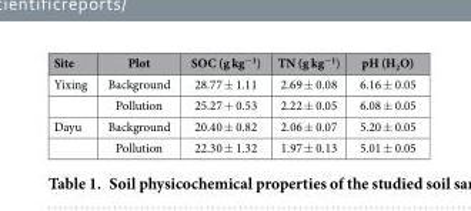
<table><thead><tr><td>Site</td><td>Plot</td><td>SOC (g kg<sup>−1</sup>)</td><td>TN (g kg<sup>−1</sup>)</td><td>pH (H<sub>2</sub>O)</td></tr></thead><tbody><tr><td rowspan="2">Yixing</td><td>Background</td><td>28.77 ± 1.11</td><td>2.69 ± 0.08</td><td>6.16 ± 0.05</td></tr><tr><td>Pollution</td><td>25.27 + 0.53</td><td>2.22 ± 0.05</td><td>6.08 ± 0.05</td></tr><tr><td rowspan="2">Dayu</td><td>Background</td><td>20.40 ± 0.82</td><td>2.06 ± 0.07</td><td>5.20 ± 0.05</td></tr><tr><td>Pollution</td><td>22.30 ± 1.32</td><td>1.97 ± 0.13</td><td>5.01 ± 0.05</td></tr></tbody></table>